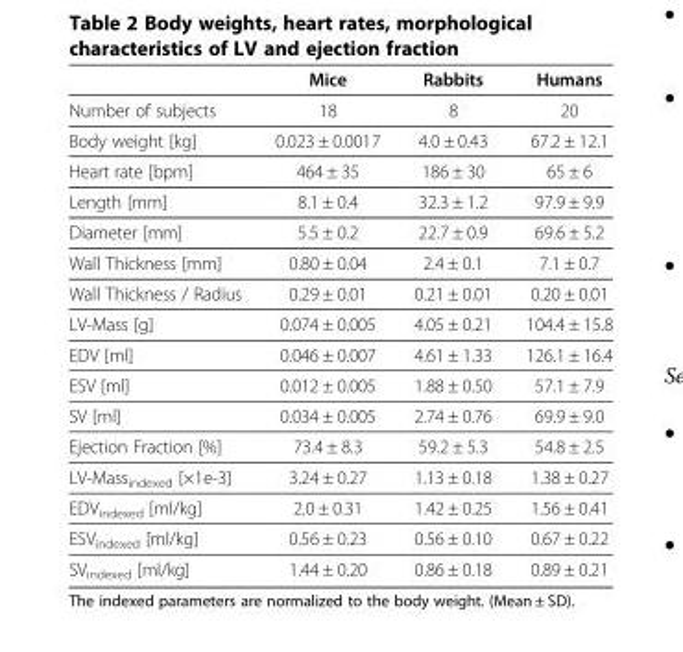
<table><thead><tr><td></td><td>Mice</td><td>Rabbits</td><td>Humans</td></tr></thead><tbody><tr><td>Number of subjects</td><td>18</td><td>8</td><td>20</td></tr><tr><td>Body weight [kg]</td><td>0.023 ± 0.0017</td><td>4.0 ± 0.43</td><td>67.2 ± 12.1</td></tr><tr><td>Heart rate [bpm]</td><td>464 ± 35</td><td>186 ± 30</td><td>65 ± 6</td></tr><tr><td>Length [mm]</td><td>8.1 ± 0.4</td><td>32.3 ± 1.2</td><td>97.9 ± 9.9</td></tr><tr><td>Diameter [mm]</td><td>5.5 ± 0.2</td><td>22.7 ± 0.9</td><td>69.6 ± 5.2</td></tr><tr><td>Wall Thickness [mm]</td><td>0.80 ± 0.04</td><td>2.4 ± 0.1</td><td>7.1 ± 0.7</td></tr><tr><td>Wall Thickness / Radius</td><td>0.29 ± 0.01</td><td>0.21 ± 0.01</td><td>0.20 ± 0.01</td></tr><tr><td>LV-Mass [g]</td><td>0.074 ± 0.005</td><td>4.05 ± 0.21</td><td>104.4 ± 15.8</td></tr><tr><td>EDV [ml]</td><td>0.046 ± 0.007</td><td>4.61 ± 1.33</td><td>126.1 ± 16.4</td></tr><tr><td>ESV [ml]</td><td>0.012 ± 0.005</td><td>1.88 ± 0.50</td><td>57.1 ± 7.9</td></tr><tr><td>SV [ml]</td><td>0.034 ± 0.005</td><td>2.74 ± 0.76</td><td>69.9 ± 9.0</td></tr><tr><td>Ejection Fraction [%]</td><td>73.4 ± 8.3</td><td>59.2 ± 5.3</td><td>54.8 ± 2.5</td></tr><tr><td>LV-Mass<sub>indexed</sub> [×1e-3]</td><td>3.24 ± 0.27</td><td>1.13 ± 0.18</td><td>1.38 ± 0.27</td></tr><tr><td>EDV<sub>indexed</sub> [ml/kg]</td><td>2.0 ± 0.31</td><td>1.42 ± 0.25</td><td>1.56 ± 0.41</td></tr><tr><td>ESV<sub>indexed</sub> [ml/kg]</td><td>0.56 ± 0.23</td><td>0.56 ± 0.10</td><td>0.67 ± 0.22</td></tr><tr><td>SV<sub>indexed</sub> [ml/kg]</td><td>1.44 ± 0.20</td><td>0.86 ± 0.18</td><td>0.89 ± 0.21</td></tr></tbody></table>